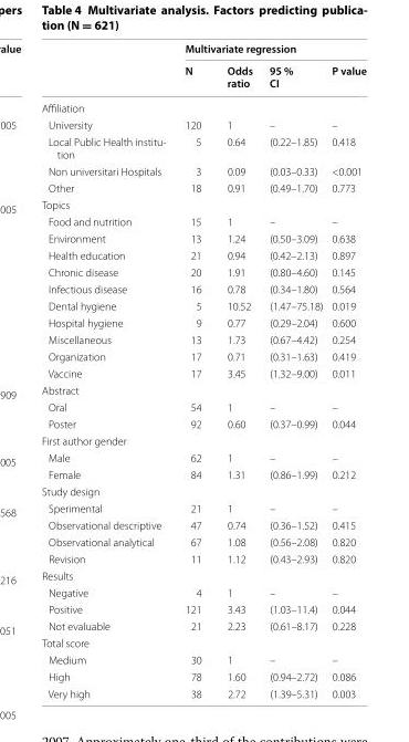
<table><thead><tr><td rowspan="2"></td><td colspan="4">Multivariate regression</td></tr><tr><td>N</td><td>Odds ratio</td><td>95 % CI</td><td>P value</td></tr></thead><tbody><tr><td colspan="5">Affiliation</td></tr><tr><td>University</td><td>120</td><td>1</td><td>–</td><td>–</td></tr><tr><td>Local Public Health institu- tion</td><td>5</td><td>0.64</td><td>(0.22–1.85)</td><td>0.418</td></tr><tr><td>Non universitari Hospitals</td><td>3</td><td>0.09</td><td>(0.03–0.33)</td><td>&lt;0.001</td></tr><tr><td>Other</td><td>18</td><td>0.91</td><td>(0.49–1.70)</td><td>0.773</td></tr><tr><td colspan="5">Topics</td></tr><tr><td>Food and nutrition</td><td>15</td><td>1</td><td>–</td><td>–</td></tr><tr><td>Environment</td><td>13</td><td>1.24</td><td>(0.50–3.09)</td><td>0.638</td></tr><tr><td>Health education</td><td>21</td><td>0.94</td><td>(0.42–2.13)</td><td>0.897</td></tr><tr><td>Chronic disease</td><td>20</td><td>1.91</td><td>(0.80–4.60)</td><td>0.145</td></tr><tr><td>Infectious disease</td><td>16</td><td>0.78</td><td>(0.34–1.80)</td><td>0.564</td></tr><tr><td>Dental hygiene</td><td>5</td><td>10.52</td><td>(1.47–75.18)</td><td>0.019</td></tr><tr><td>Hospital hygiene</td><td>9</td><td>0.77</td><td>(0.29–2.04)</td><td>0.600</td></tr><tr><td>Miscellaneous</td><td>13</td><td>1.73</td><td>(0.67–4.42)</td><td>0.254</td></tr><tr><td>Organization</td><td>17</td><td>0.71</td><td>(0.31–1.63)</td><td>0.419</td></tr><tr><td>Vaccine</td><td>17</td><td>3.45</td><td>(1.32–9.00)</td><td>0.011</td></tr><tr><td colspan="5">Abstract</td></tr><tr><td>Oral</td><td>54</td><td>1</td><td>–</td><td>–</td></tr><tr><td>Poster</td><td>92</td><td>0.60</td><td>(0.37–0.99)</td><td>0.044</td></tr><tr><td colspan="5">First author gender</td></tr><tr><td>Male</td><td>62</td><td>1</td><td>–</td><td>–</td></tr><tr><td>Female</td><td>84</td><td>1.31</td><td>(0.86–1.99)</td><td>0.212</td></tr><tr><td colspan="5">Study design</td></tr><tr><td>Sperimental</td><td>21</td><td>1</td><td>–</td><td>–</td></tr><tr><td>Observational descriptive</td><td>47</td><td>0.74</td><td>(0.36–1.52)</td><td>0.415</td></tr><tr><td>Observational analytical</td><td>67</td><td>1.08</td><td>(0.56–2.08)</td><td>0.820</td></tr><tr><td>Revision</td><td>11</td><td>1.12</td><td>(0.43–2.93)</td><td>0.820</td></tr><tr><td colspan="5">Results</td></tr><tr><td>Negative</td><td>4</td><td>1</td><td>–</td><td>–</td></tr><tr><td>Positive</td><td>121</td><td>3.43</td><td>(1.03–11.4)</td><td>0.044</td></tr><tr><td>Not evaluable</td><td>21</td><td>2.23</td><td>(0.61–8.17)</td><td>0.228</td></tr><tr><td colspan="5">Total score</td></tr><tr><td>Medium</td><td>30</td><td>1</td><td>–</td><td>–</td></tr><tr><td>High</td><td>78</td><td>1.60</td><td>(0.94–2.72)</td><td>0.086</td></tr><tr><td>Very high</td><td>38</td><td>2.72</td><td>(1.39–5.31)</td><td>0.003</td></tr></tbody></table>